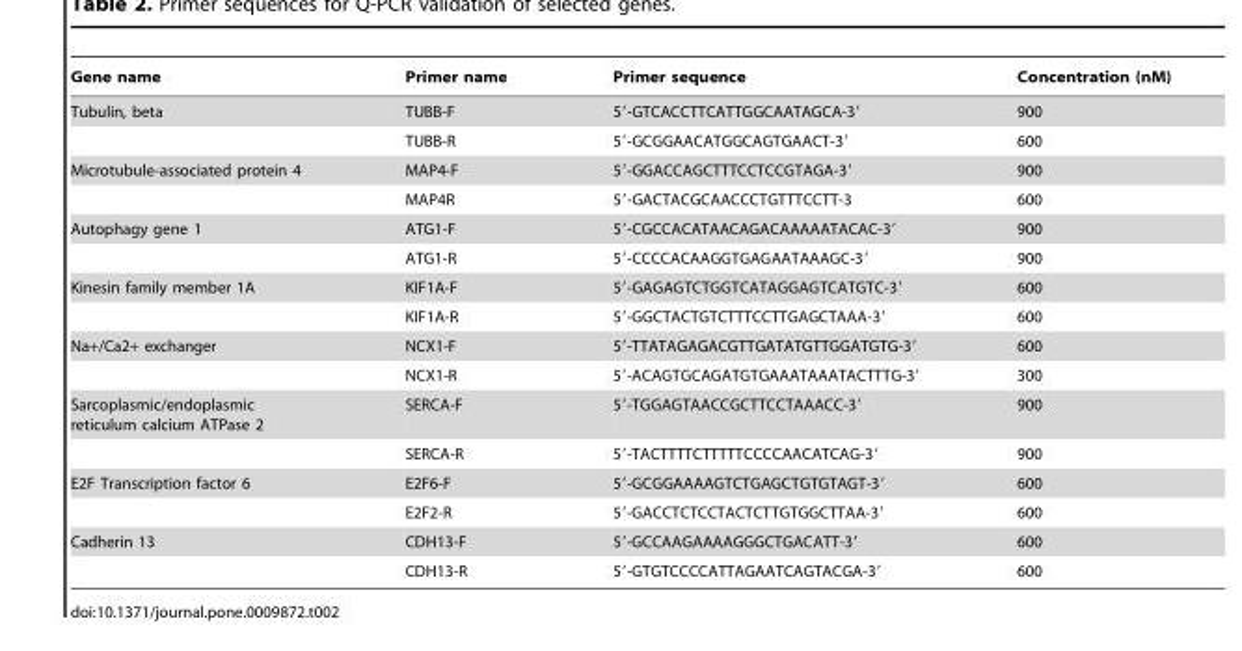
<table><thead><tr><td>Gene name</td><td>Primer name</td><td>Primer sequence</td><td>Concentration (nM)</td></tr></thead><tbody><tr><td rowspan="2">Tubulin, beta</td><td>TUBB-F</td><td>5′-GTCACCTTCATTGGCAATAGCA-3′</td><td>900</td></tr><tr><td>TUBB-R</td><td>5′-GCGGAACATGGCAGTGAACT-3′</td><td>600</td></tr><tr><td rowspan="2">Microtubule-associated protein 4</td><td>MAP4-F</td><td>5′-GGACCAGCTTTCCTCCGTAGA-3′</td><td>900</td></tr><tr><td>MAP4R</td><td>5′-GACTACGCAACCCTGTTTCCTT-3</td><td>600</td></tr><tr><td rowspan="2">Autophagy gene 1</td><td>ATG1-F</td><td>5′-CGCCACATAACAGACAAAAATACAC-3′</td><td>900</td></tr><tr><td>ATG1-R</td><td>5′-CCCCACAAGGTGAGAATAAAGC-3′</td><td>900</td></tr><tr><td rowspan="2">Kinesin family member 1A</td><td>KIF1A-F</td><td>5′-GAGAGTCTGGTCATAGGAGTCATGTC-3′</td><td>600</td></tr><tr><td>KIF1A-R</td><td>5′-GGCTACTGTCTTTCCTTGAGCTAAA-3′</td><td>600</td></tr><tr><td rowspan="2">Na+/Ca2+ exchanger</td><td>NCX1-F</td><td>5′-TTATAGAGACGTTGATATGTTGGATGTG-3′</td><td>600</td></tr><tr><td>NCX1-R</td><td>5′-ACAGTGCAGATGTGAAATAAATACTTTG-3′</td><td>300</td></tr><tr><td rowspan="2">Sarcoplasmic/endoplasmic reticulum calcium ATPase 2</td><td>SERCA-F</td><td>5′-TGGAGTAACCGCTTCCTAAACC-3′</td><td>900</td></tr><tr><td>SERCA-R</td><td>5′-TACTTTTCTTTTTCCCCAACATCAG-3′</td><td>900</td></tr><tr><td rowspan="2">E2F Transcription factor 6</td><td>E2F6-F</td><td>5′-GCGGAAAAGTCTGAGCTGTGTAGT-3′</td><td>600</td></tr><tr><td>E2F2-R</td><td>5′-GACCTCTCCTACTCTTGTGGCTTAA-3′</td><td>600</td></tr><tr><td rowspan="2">Cadherin 13</td><td>CDH13-F</td><td>5′-GCCAAGAAAAGGGCTGACATT-3′</td><td>600</td></tr><tr><td>CDH13-R</td><td>5′-GTGTCCCCATTAGAATCAGTACGA-3′</td><td>600</td></tr></tbody></table>